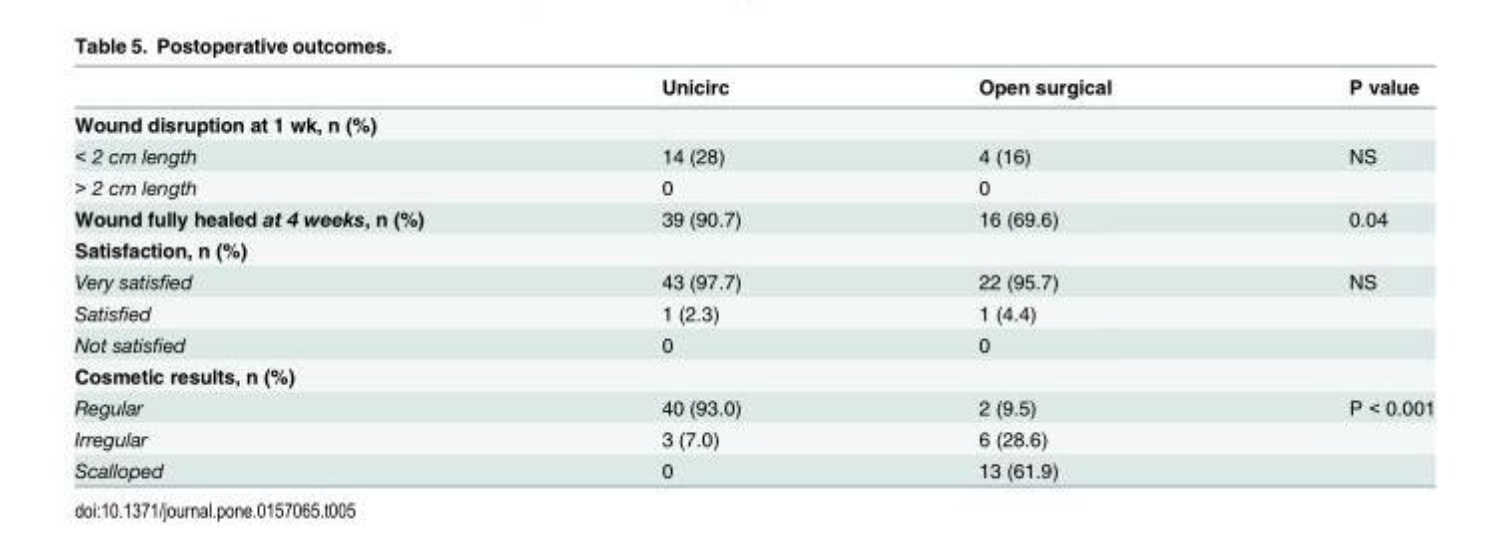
<table><thead><tr><td></td><td>Unicirc</td><td>Open surgical</td><td>P value</td></tr></thead><tbody><tr><td colspan="4">Wound disruption at 1 wk, n (%)</td></tr><tr><td>&lt; 2 cm length</td><td>14 (28)</td><td>4 (16)</td><td>NS</td></tr><tr><td>&gt; 2 cm length</td><td>0</td><td>0</td><td></td></tr><tr><td>Wound fully healed at 4 weeks, n (%)</td><td>39 (90.7)</td><td>16 (69.6)</td><td>0.04</td></tr><tr><td colspan="4">Satisfaction, n (%)</td></tr><tr><td>Very satisfied</td><td>43 (97.7)</td><td>22 (95.7)</td><td>NS</td></tr><tr><td>Satisfied</td><td>1 (2.3)</td><td>1 (4.4)</td><td></td></tr><tr><td>Not satisfied</td><td>0</td><td>0</td><td></td></tr><tr><td colspan="4">Cosmetic results, n (%)</td></tr><tr><td>Regular</td><td>40 (93.0)</td><td>2 (9.5)</td><td>P &lt; 0.001</td></tr><tr><td>Irregular</td><td>3 (7.0)</td><td>6 (28.6)</td><td></td></tr><tr><td>Scalloped</td><td>0</td><td>13 (61.9)</td><td></td></tr></tbody></table>